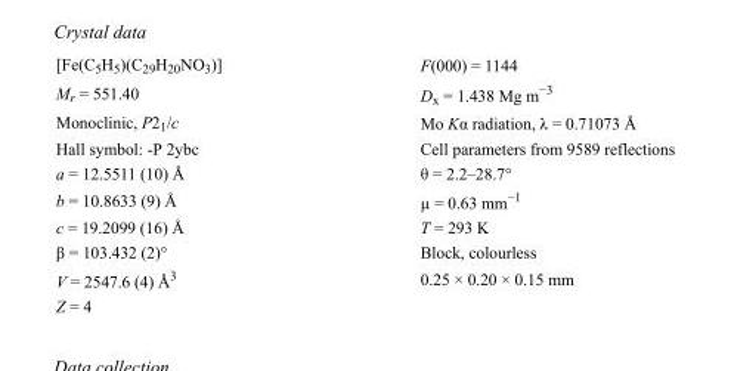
<table><tbody><tr><td>[Fe(C<sub>5</sub>H<sub>5</sub>)(C<sub>29</sub>H<sub>20</sub>NO<sub>3</sub>)]</td><td>F(000) = 1144</td></tr><tr><td>M<sub>r</sub> = 551.40</td><td>D<sub>x</sub> = 1.438 Mg m<sup>−3</sup></td></tr><tr><td>Monoclinic, P2<sub>1</sub>/c</td><td>Mo Kα radiation, λ = 0.71073 Å</td></tr><tr><td>Hall symbol: -P 2ybc</td><td>Cell parameters from 9589 reflections</td></tr><tr><td>a = 12.5511 (10) Å</td><td>θ = 2.2–28.7°</td></tr><tr><td>b = 10.8633 (9) Å</td><td>µ = 0.63 mm<sup>−1</sup></td></tr><tr><td>c = 19.2099 (16) Å</td><td>T = 293 K</td></tr><tr><td>β = 103.432 (2)°</td><td>Block, colourless</td></tr><tr><td>V = 2547.6 (4) Å<sup>3</sup></td><td>0.25 × 0.20 × 0.15 mm</td></tr><tr><td>Z = 4</td><td></td></tr></tbody></table>